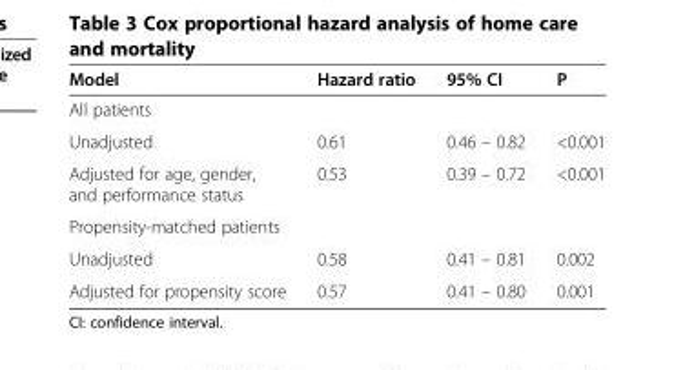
<table><thead><tr><td>Model</td><td>Hazard ratio</td><td>95% CI</td><td>P</td></tr></thead><tbody><tr><td colspan="4">All patients</td></tr><tr><td>Unadjusted</td><td>0.61</td><td>0.46 – 0.82</td><td>&lt;0.001</td></tr><tr><td>Adjusted for age, gender, and performance status</td><td>0.53</td><td>0.39 – 0.72</td><td>&lt;0.001</td></tr><tr><td colspan="4">Propensity-matched patients</td></tr><tr><td>Unadjusted</td><td>0.58</td><td>0.41 – 0.81</td><td>0.002</td></tr><tr><td>Adjusted for propensity score</td><td>0.57</td><td>0.41 – 0.80</td><td>0.001</td></tr></tbody></table>